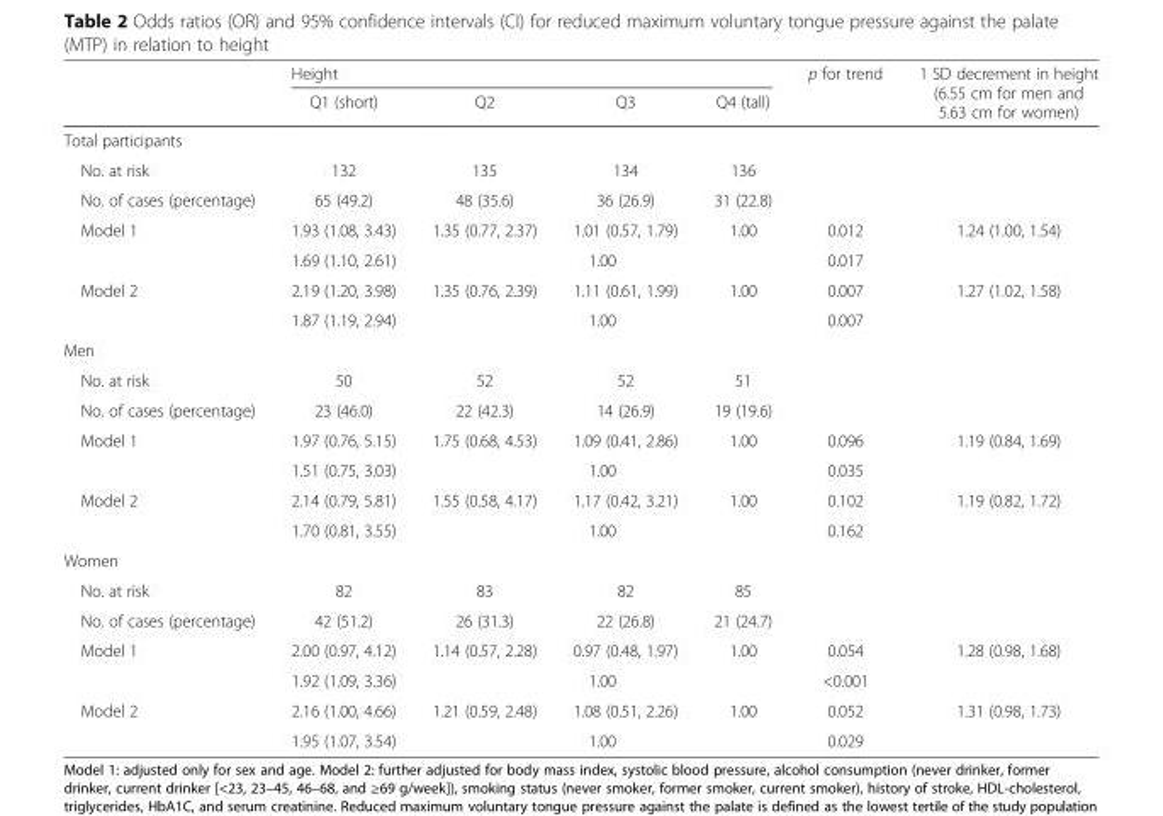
<table><thead><tr><td rowspan="2"></td><td colspan="4">Height</td><td rowspan="2">p for trend</td><td rowspan="2">1 SD decrement in height (6.55 cm for men and 5.63 cm for women)</td></tr><tr><td>Q1 (short)</td><td>Q2</td><td>Q3</td><td>Q4 (tall)</td></tr></thead><tbody><tr><td colspan="7">Total participants</td></tr><tr><td>No. at risk</td><td>132</td><td>135</td><td>134</td><td>136</td><td></td><td></td></tr><tr><td>No. of cases (percentage)</td><td>65 (49.2)</td><td>48 (35.6)</td><td>36 (26.9)</td><td>31 (22.8)</td><td></td><td></td></tr><tr><td rowspan="2">Model 1</td><td>1.93 (1.08, 3.43)</td><td>1.35 (0.77, 2.37)</td><td>1.01 (0.57, 1.79)</td><td>1.00</td><td>0.012</td><td>1.24 (1.00, 1.54)</td></tr><tr><td>1.69 (1.10, 2.61)</td><td colspan="3">1.00</td><td>0.017</td><td></td></tr><tr><td rowspan="2">Model 2</td><td>2.19 (1.20, 3.98)</td><td>1.35 (0.76, 2.39)</td><td>1.11 (0.61, 1.99)</td><td>1.00</td><td>0.007</td><td>1.27 (1.02, 1.58)</td></tr><tr><td>1.87 (1.19, 2.94)</td><td colspan="3">1.00</td><td>0.007</td><td></td></tr><tr><td colspan="7">Men</td></tr><tr><td>No. at risk</td><td>50</td><td>52</td><td>52</td><td>51</td><td></td><td></td></tr><tr><td>No. of cases (percentage)</td><td>23 (46.0)</td><td>22 (42.3)</td><td>14 (26.9)</td><td>19 (19.6)</td><td></td><td></td></tr><tr><td rowspan="2">Model 1</td><td>1.97 (0.76, 5.15)</td><td>1.75 (0.68, 4.53)</td><td>1.09 (0.41, 2.86)</td><td>1.00</td><td>0.096</td><td>1.19 (0.84, 1.69)</td></tr><tr><td>1.51 (0.75, 3.03)</td><td colspan="3">1.00</td><td>0.035</td><td></td></tr><tr><td rowspan="2">Model 2</td><td>2.14 (0.79, 5.81)</td><td>1.55 (0.58, 4.17)</td><td>1.17 (0.42, 3.21)</td><td>1.00</td><td>0.102</td><td>1.19 (0.82, 1.72)</td></tr><tr><td>1.70 (0.81, 3.55)</td><td colspan="3">1.00</td><td>0.162</td><td></td></tr><tr><td colspan="7">Women</td></tr><tr><td>No. at risk</td><td>82</td><td>83</td><td>82</td><td>85</td><td></td><td></td></tr><tr><td>No. of cases (percentage)</td><td>42 (51.2)</td><td>26 (31.3)</td><td>22 (26.8)</td><td>21 (24.7)</td><td></td><td></td></tr><tr><td rowspan="2">Model 1</td><td>2.00 (0.97, 4.12)</td><td>1.14 (0.57, 2.28)</td><td>0.97 (0.48, 1.97)</td><td>1.00</td><td>0.054</td><td>1.28 (0.98, 1.68)</td></tr><tr><td>1.92 (1.09, 3.36)</td><td colspan="3">1.00</td><td>&lt;0.001</td><td></td></tr><tr><td rowspan="2">Model 2</td><td>2.16 (1.00, 4.66)</td><td>1.21 (0.59, 2.48)</td><td>1.08 (0.51, 2.26)</td><td>1.00</td><td>0.052</td><td>1.31 (0.98, 1.73)</td></tr><tr><td>1.95 (1.07, 3.54)</td><td colspan="3">1.00</td><td>0.029</td><td></td></tr></tbody></table>